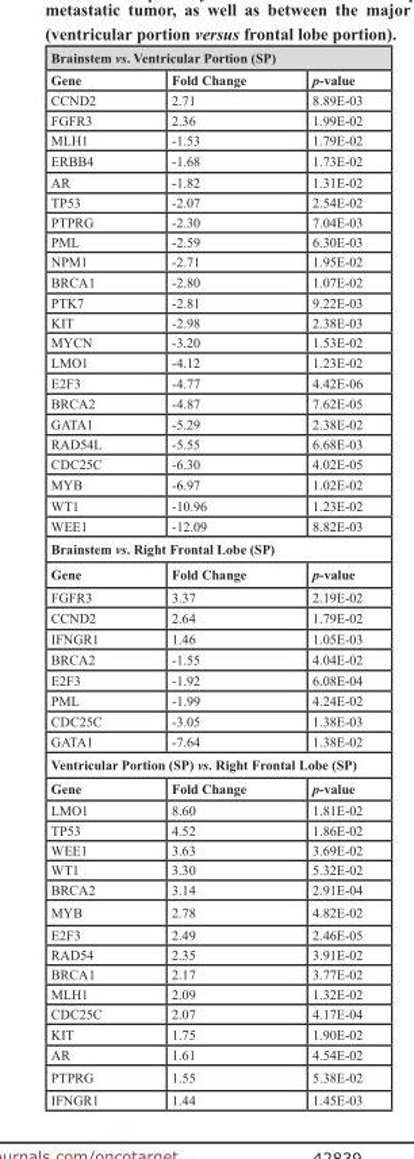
<table><thead><tr><td colspan="3">brainstem vs. Ventricular Portion (SP)</td></tr><tr><td>Gene</td><td>Fold Change</td><td>p-value</td></tr></thead><tbody><tr><td>CCND2</td><td>2.71</td><td>8.89E-03</td></tr><tr><td>FGFR3</td><td>2.36</td><td>1.99E-02</td></tr><tr><td>MLH1</td><td>-1.53</td><td>1.79E-02</td></tr><tr><td>ERBB4</td><td>-1.68</td><td>1.73E-02</td></tr><tr><td>AR</td><td>-1.82</td><td>1.31E-02</td></tr><tr><td>TP53</td><td>-2.07</td><td>2.54E-02</td></tr><tr><td>PTPRG</td><td>-2.30</td><td>7.04E-03</td></tr><tr><td>PML</td><td>-2.59</td><td>6.30E-03</td></tr><tr><td>NPM1</td><td>-2.71</td><td>1.95E-02</td></tr><tr><td>BRCA1</td><td>-2.80</td><td>1.07E-02</td></tr><tr><td>PTK7</td><td>-2.81</td><td>9.22E-03</td></tr><tr><td>KIT</td><td>-2.98</td><td>2.38E-03</td></tr><tr><td>MYCN</td><td>-3.20</td><td>1.53E-02</td></tr><tr><td>LMO1</td><td>-4.12</td><td>1.23E-02</td></tr><tr><td>E2F3</td><td>-4.77</td><td>4.42E-06</td></tr><tr><td>BRCA2</td><td>-4.87</td><td>7.62E-05</td></tr><tr><td>GATA1</td><td>-5.29</td><td>2.38E-02</td></tr><tr><td>RAD54L</td><td>-5.55</td><td>6.68E-03</td></tr><tr><td>CDC25C</td><td>-6.30</td><td>4.02E-05</td></tr><tr><td>MYB</td><td>-6.97</td><td>1.02E-02</td></tr><tr><td>WT1</td><td>-10.96</td><td>1.23E-02</td></tr><tr><td>WEE1</td><td>-12.09</td><td>8.82E-03</td></tr><tr><td colspan="3">brainstem vs. Right Frontal Lobe (SP)</td></tr><tr><td>Gene</td><td>Fold Change</td><td>p-value</td></tr><tr><td>FGFR3</td><td>3.37</td><td>2.19E-02</td></tr><tr><td>CCND2</td><td>2.64</td><td>1.79E-02</td></tr><tr><td>IFNGR1</td><td>1.46</td><td>1.05E-03</td></tr><tr><td>BRCA2</td><td>-1.55</td><td>4.04E-02</td></tr><tr><td>E2F3</td><td>-1.92</td><td>6.08E-04</td></tr><tr><td>PML</td><td>-1.99</td><td>4.24E-02</td></tr><tr><td>CDC25C</td><td>-3.05</td><td>1.38E-03</td></tr><tr><td>GATA1</td><td>-7.64</td><td>1.38E-02</td></tr><tr><td colspan="3">Ventricular Portion (SP) vs. Right Frontal Lobe (SP)</td></tr><tr><td>Gene</td><td>Fold Change</td><td>p-value</td></tr><tr><td>LMO1</td><td>8.60</td><td>1.81E-02</td></tr><tr><td>TP53</td><td>4.52</td><td>1.86E-02</td></tr><tr><td>WEE1</td><td>3.63</td><td>3.69E-02</td></tr><tr><td>WT1</td><td>3.30</td><td>5.32E-02</td></tr><tr><td>BRCA2</td><td>3.14</td><td>2.91E-04</td></tr><tr><td>MYB</td><td>2.78</td><td>4.82E-02</td></tr><tr><td>E2F3</td><td>2.49</td><td>2.46E-05</td></tr><tr><td>RAD54</td><td>2.35</td><td>3.91E-02</td></tr><tr><td>BRCA1</td><td>2.17</td><td>3.77E-02</td></tr><tr><td>MLH1</td><td>2.09</td><td>1.32E-02</td></tr><tr><td>CDC25C</td><td>2.07</td><td>4.17E-04</td></tr><tr><td>KIT</td><td>1.75</td><td>1.90E-02</td></tr><tr><td>AR</td><td>1.61</td><td>4.54E-02</td></tr><tr><td>PTPRG</td><td>1.55</td><td>5.38E-02</td></tr><tr><td>IFNGR1</td><td>1.44</td><td>1.45E-03</td></tr></tbody></table>